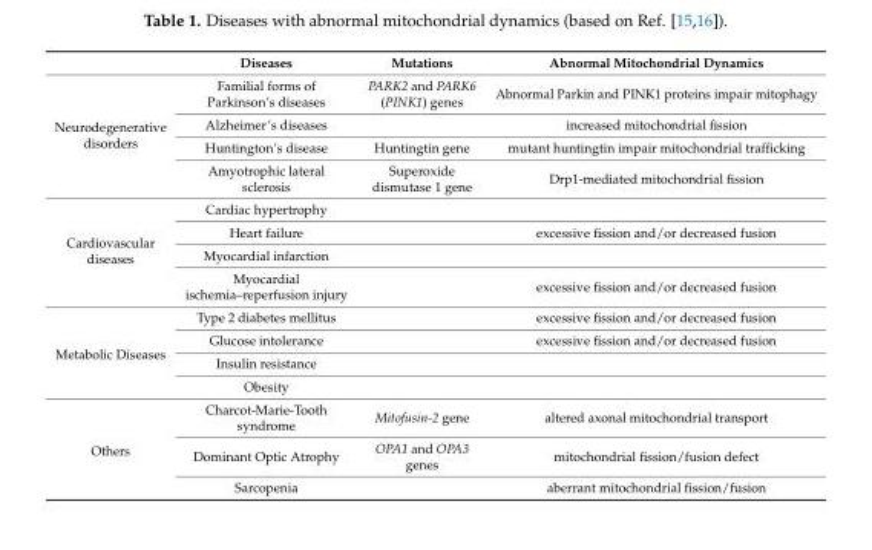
<table><thead><tr><td></td><td>Diseases</td><td>Mutations</td><td>Abnormal Mitochondrial Dynamics</td></tr></thead><tbody><tr><td rowspan="4">Neurodegenerative disorders</td><td>Familial forms of Parkinson’s diseases</td><td>PARK2 and PARK6 (PINK1) genes</td><td>Abnormal Parkin and PINK1 proteins impair mitophagy</td></tr><tr><td>Alzheimer’s diseases</td><td></td><td>increased mitochondrial fission</td></tr><tr><td>Huntington’s disease</td><td>Huntingtin gene</td><td>mutant huntingtin impair mitochondrial trafficking</td></tr><tr><td>Amyotrophic lateral sclerosis</td><td>Superoxide dismutase 1 gene</td><td>Drp1-mediated mitochondrial fission</td></tr><tr><td rowspan="4">Cardiovascular diseases</td><td>Cardiac hypertrophy</td><td></td><td></td></tr><tr><td>Heart failure</td><td></td><td>excessive fission and/or decreased fusion</td></tr><tr><td>Myocardial infarction</td><td></td><td></td></tr><tr><td>Myocardial ischemia–reperfusion injury</td><td></td><td>excessive fission and/or decreased fusion</td></tr><tr><td rowspan="4">Metabolic Diseases</td><td>Type 2 diabetes mellitus</td><td></td><td>excessive fission and/or decreased fusion</td></tr><tr><td>Glucose intolerance</td><td></td><td>excessive fission and/or decreased fusion</td></tr><tr><td>Insulin resistance</td><td></td><td></td></tr><tr><td>Obesity</td><td></td><td></td></tr><tr><td rowspan="3">Others</td><td>Charcot-Marie-Tooth syndrome</td><td>Mitofusin-2 gene</td><td>altered axonal mitochondrial transport</td></tr><tr><td>Dominant Optic Atrophy</td><td>OPA1 and OPA3 genes</td><td>mitochondrial fission/fusion defect</td></tr><tr><td>Sarcopenia</td><td></td><td>aberrant mitochondrial fission/fusion</td></tr></tbody></table>